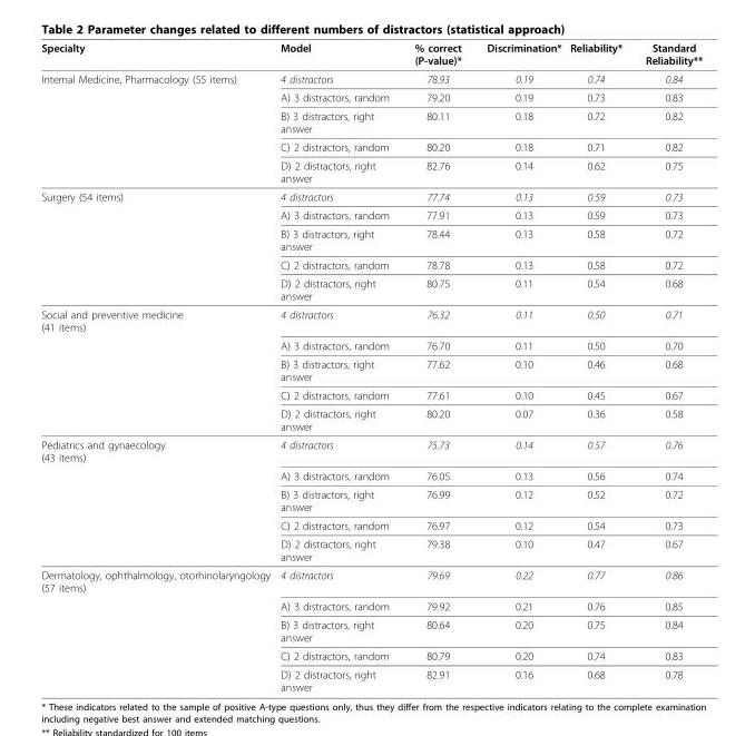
<table><thead><tr><td>Specialty</td><td>Model</td><td>% correct (P-value)*</td><td>Discrimination*</td><td>Reliability*</td><td>Standard Reliability**</td></tr></thead><tbody><tr><td rowspan="5">Internal Medicine, Pharmacology (55 items)</td><td>4 distractors</td><td>78.93</td><td>0.19</td><td>0.74</td><td>0.84</td></tr><tr><td>A) 3 distractors, random</td><td>79.20</td><td>0.19</td><td>0.73</td><td>0.83</td></tr><tr><td>B) 3 distractors, right answer</td><td>80.11</td><td>0.18</td><td>0.72</td><td>0.82</td></tr><tr><td>C) 2 distractors, random</td><td>80.20</td><td>0.18</td><td>0.71</td><td>0.82</td></tr><tr><td>D) 2 distractors, right answer</td><td>82.76</td><td>0.14</td><td>0.62</td><td>0.75</td></tr><tr><td rowspan="5">Surgery (54 items)</td><td>4 distractors</td><td>77.74</td><td>0.13</td><td>0.59</td><td>0.73</td></tr><tr><td>A) 3 distractors, random</td><td>77.91</td><td>0.13</td><td>0.59</td><td>0.73</td></tr><tr><td>B) 3 distractors, right answer</td><td>78.44</td><td>0.13</td><td>0.58</td><td>0.72</td></tr><tr><td>C) 2 distractors, random</td><td>78.78</td><td>0.13</td><td>0.58</td><td>0.72</td></tr><tr><td>D) 2 distractors, right answer</td><td>80.75</td><td>0.11</td><td>0.54</td><td>0.68</td></tr><tr><td rowspan="5">Social and preventive medicine (41 items)</td><td>4 distractors</td><td>76.32</td><td>0.11</td><td>0.50</td><td>0.71</td></tr><tr><td>A) 3 distractors, random</td><td>76.70</td><td>0.11</td><td>0.50</td><td>0.70</td></tr><tr><td>B) 3 distractors, right answer</td><td>77.62</td><td>0.10</td><td>0.46</td><td>0.68</td></tr><tr><td>C) 2 distractors, random</td><td>77.61</td><td>0.10</td><td>0.45</td><td>0.67</td></tr><tr><td>D) 2 distractors, right answer</td><td>80.20</td><td>0.07</td><td>0.36</td><td>0.58</td></tr><tr><td rowspan="5">Pediatrics and gynaecology (43 items)</td><td>4 distractors</td><td>75.73</td><td>0.14</td><td>0.57</td><td>0.76</td></tr><tr><td>A) 3 distractors, random</td><td>76.05</td><td>0.13</td><td>0.56</td><td>0.74</td></tr><tr><td>B) 3 distractors, right answer</td><td>76.99</td><td>0.12</td><td>0.52</td><td>0.72</td></tr><tr><td>C) 2 distractors, random</td><td>76.97</td><td>0.12</td><td>0.54</td><td>0.73</td></tr><tr><td>D) 2 distractors, right answer</td><td>79.38</td><td>0.10</td><td>0.47</td><td>0.67</td></tr><tr><td rowspan="5">Dermatology, ophthalmology, otorhinolaryngology (57 items)</td><td>4 distractors</td><td>79.69</td><td>0.22</td><td>0.77</td><td>0.86</td></tr><tr><td>A) 3 distractors, random</td><td>79.92</td><td>0.21</td><td>0.76</td><td>0.85</td></tr><tr><td>B) 3 distractors, right answer</td><td>80.64</td><td>0.20</td><td>0.75</td><td>0.84</td></tr><tr><td>C) 2 distractors, random</td><td>80.79</td><td>0.20</td><td>0.74</td><td>0.83</td></tr><tr><td>D) 2 distractors, right answer</td><td>82.91</td><td>0.16</td><td>0.68</td><td>0.78</td></tr></tbody></table>